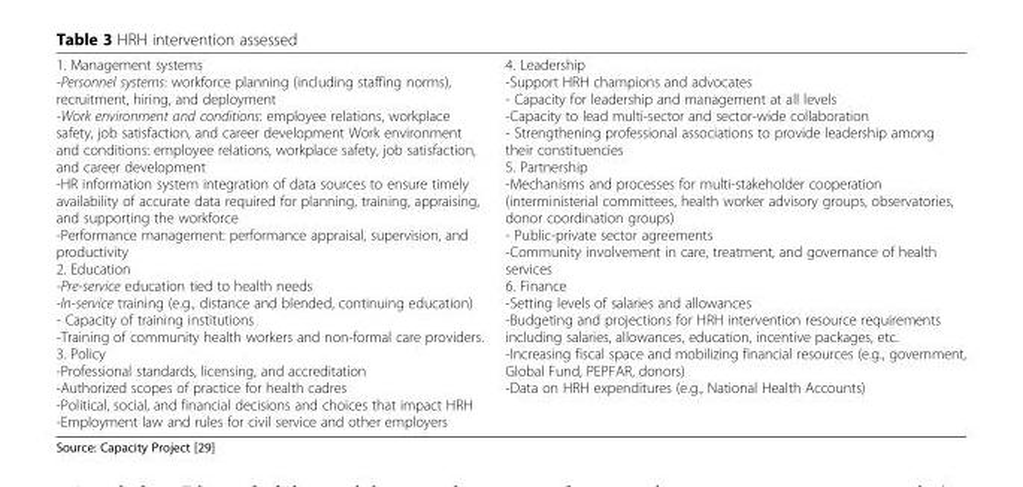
<table><tbody><tr><td>1. Management systems -Personnel systems: workforce planning (including staffing norms), recruitment, hiring, and deployment -Work environment and conditions: employee relations, workplace safety, job satisfaction, and career development Work environment and conditions: employee relations, workplace safety, job satisfaction, and career development -HR information system integration of data sources to ensure timely availability of accurate data required for planning, training, appraising, and supporting the workforce -Performance management: performance appraisal, supervision, and productivity 2. Education -Pre-service education tied to health needs -In-service training (e.g., distance and blended, continuing education) - Capacity of training institutions -Training of community health workers and non-formal care providers. 3. Policy -Professional standards, licensing, and accreditation -Authorized scopes of practice for health cadres -Political, social, and financial decisions and choices that impact HRH -Employment law and rules for civil service and other employers</td><td>4. Leadership -Support HRH champions and advocates - Capacity for leadership and management at all levels -Capacity to lead multi-sector and sector-wide collaboration - Strengthening professional associations to provide leadership among their constituencies 5. Partnership -Mechanisms and processes for multi-stakeholder cooperation (interministerial committees, health worker advisory groups, observatories, donor coordination groups) - Public-private sector agreements -Community involvement in care, treatment, and governance of health services 6. Finance -Setting levels of salaries and allowances -Budgeting and projections for HRH intervention resource requirements including salaries, allowances, education, incentive packages, etc. -Increasing fiscal space and mobilizing financial resources (e.g., government, Global Fund, PEPFAR, donors) -Data on HRH expenditures (e.g., National Health Accounts)</td></tr></tbody></table>